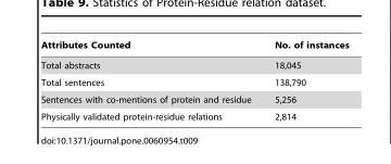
<table><thead><tr><td>Attributes Counted</td><td>No. of instances</td></tr></thead><tbody><tr><td>Total abstracts</td><td>18,045</td></tr><tr><td>Total sentences</td><td>138,790</td></tr><tr><td>Sentences with co-mentions of protein and residue</td><td>5,256</td></tr><tr><td>Physically validated protein-residue relations</td><td>2,814</td></tr></tbody></table>